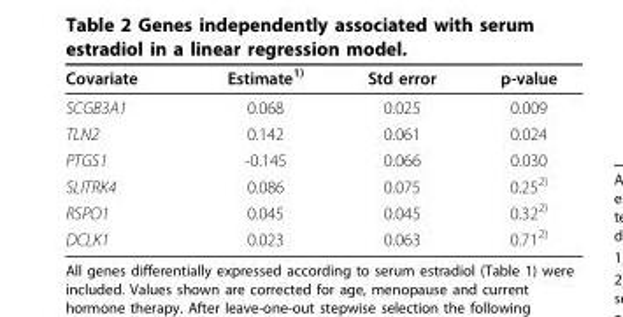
<table><thead><tr><td>Covariate</td><td>Estimate<sup>1)</sup></td><td>Std error</td><td>p-value</td></tr></thead><tbody><tr><td>SCGB3A1</td><td>0.068</td><td>0.025</td><td>0.009</td></tr><tr><td>TLN2</td><td>0.142</td><td>0.061</td><td>0.024</td></tr><tr><td>PTGS1</td><td>-0.145</td><td>0.066</td><td>0.030</td></tr><tr><td>SLITRK4</td><td>0.086</td><td>0.075</td><td>0.25<sup>2)</sup></td></tr><tr><td>RSPO1</td><td>0.045</td><td>0.045</td><td>0.32<sup>2)</sup></td></tr><tr><td>DCLK1</td><td>0.023</td><td>0.063</td><td>0.71<sup>2)</sup></td></tr></tbody></table>